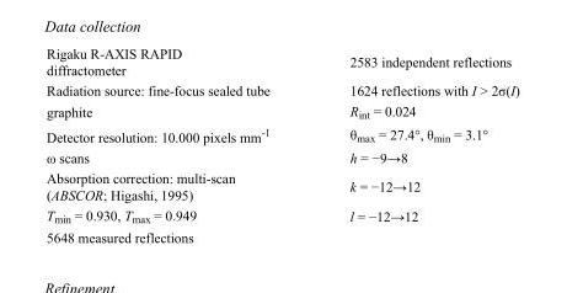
<table><tbody><tr><td>Rigaku R-AXIS RAPID diffractometer</td><td>2583 independent reflections</td></tr><tr><td>Radiation source: fine-focus sealed tube</td><td>1624 reflections with I &gt; 2σ(I)</td></tr><tr><td>graphite</td><td>R<sub>int</sub> = 0.024</td></tr><tr><td>Detector resolution: 10.000 pixels mm<sup>-1</sup></td><td>θ<sub>max</sub> = 27.4°, θ<sub>min</sub> = 3.1°</td></tr><tr><td>ω scans</td><td>h = −9→8</td></tr><tr><td>Absorption correction: multi-scan (ABSCOR; Higashi, 1995)</td><td>k = −12→12</td></tr><tr><td>T<sub>min</sub> = 0.930, T<sub>max</sub> = 0.949</td><td>l = −12→12</td></tr><tr><td>5648 measured reflections</td><td></td></tr></tbody></table>